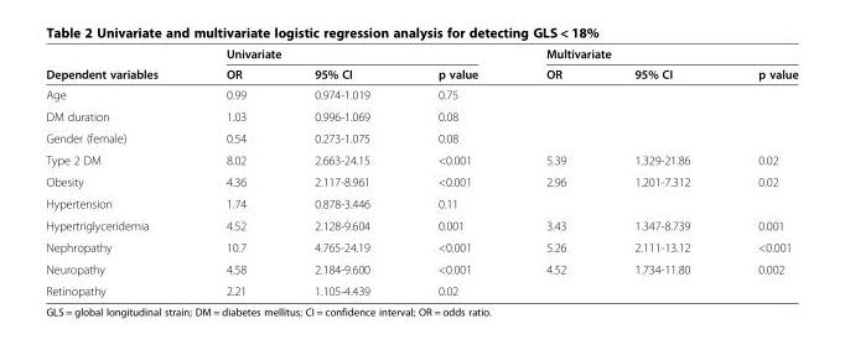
<table><thead><tr><td rowspan="2">Dependent variables</td><td colspan="3">Univariate</td><td colspan="3">Multivariate</td></tr><tr><td>OR</td><td>95% CI</td><td>p value</td><td>OR</td><td>95% CI</td><td>p value</td></tr></thead><tbody><tr><td>Age</td><td>0.99</td><td>0.974-1.019</td><td>0.75</td><td></td><td></td><td></td></tr><tr><td>DM duration</td><td>1.03</td><td>0.996-1.069</td><td>0.08</td><td></td><td></td><td></td></tr><tr><td>Gender (female)</td><td>0.54</td><td>0.273-1.075</td><td>0.08</td><td></td><td></td><td></td></tr><tr><td>Type 2 DM</td><td>8.02</td><td>2.663-24.15</td><td>&lt;0.001</td><td>5.39</td><td>1.329-21.86</td><td>0.02</td></tr><tr><td>Obesity</td><td>4.36</td><td>2.117-8.961</td><td>&lt;0.001</td><td>2.96</td><td>1.201-7.312</td><td>0.02</td></tr><tr><td>Hypertension</td><td>1.74</td><td>0.878-3.446</td><td>0.11</td><td></td><td></td><td></td></tr><tr><td>Hypertriglyceridemia</td><td>4.52</td><td>2.128-9.604</td><td>0.001</td><td>3.43</td><td>1.347-8.739</td><td>0.001</td></tr><tr><td>Nephropathy</td><td>10.7</td><td>4.765-24.19</td><td>&lt;0.001</td><td>5.26</td><td>2.111-13.12</td><td>&lt;0.001</td></tr><tr><td>Neuropathy</td><td>4.58</td><td>2.184-9.600</td><td>&lt;0.001</td><td>4.52</td><td>1.734-11.80</td><td>0.002</td></tr><tr><td>Retinopathy</td><td>2.21</td><td>1.105-4.439</td><td>0.02</td><td></td><td></td><td></td></tr></tbody></table>